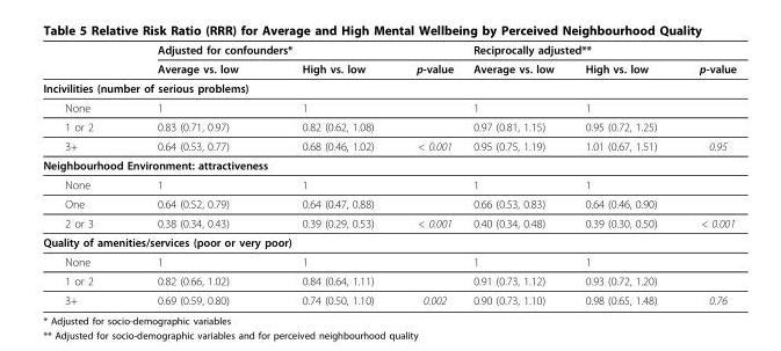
<table><thead><tr><td rowspan="2"></td><td colspan="3">Adjusted for confounders*</td><td colspan="3">Reciprocally adjusted**</td></tr><tr><td>Average vs. low</td><td>High vs. low</td><td>p-value</td><td>Average vs. low</td><td>High vs. low</td><td>p-value</td></tr></thead><tbody><tr><td colspan="7">Incivilities (number of serious problems)</td></tr><tr><td>None</td><td>1</td><td>1</td><td></td><td>1</td><td>1</td><td></td></tr><tr><td>1 or 2</td><td>0.83 (0.71, 0.97)</td><td>0.82 (0.62, 1.08)</td><td></td><td>0.97 (0.81, 1.15)</td><td>0.95 (0.72, 1.25)</td><td></td></tr><tr><td>3+</td><td>0.64 (0.53, 0.77)</td><td>0.68 (0.46, 1.02)</td><td>&lt; 0.001</td><td>0.95 (0.75, 1.19)</td><td>1.01 (0.67, 1.51)</td><td>0.95</td></tr><tr><td colspan="7">Neighbourhood Environment: attractiveness</td></tr><tr><td>None</td><td>1</td><td>1</td><td></td><td>1</td><td>1</td><td></td></tr><tr><td>One</td><td>0.64 (0.52, 0.79)</td><td>0.64 (0.47, 0.88)</td><td></td><td>0.66 (0.53, 0.83)</td><td>0.64 (0.46, 0.90)</td><td></td></tr><tr><td>2 or 3</td><td>0.38 (0.34, 0.43)</td><td>0.39 (0.29, 0.53)</td><td>&lt; 0.001</td><td>0.40 (0.34, 0.48)</td><td>0.39 (0.30, 0.50)</td><td>&lt; 0.001</td></tr><tr><td colspan="7">Quality of amenities/services (poor or very poor)</td></tr><tr><td>None</td><td>1</td><td>1</td><td></td><td>1</td><td>1</td><td></td></tr><tr><td>1 or 2</td><td>0.82 (0.66, 1.02)</td><td>0.84 (0.64, 1.11)</td><td></td><td>0.91 (0.73, 1.12)</td><td>0.93 (0.72, 1.20)</td><td></td></tr><tr><td>3+</td><td>0.69 (0.59, 0.80)</td><td>0.74 (0.50, 1.10)</td><td>0.002</td><td>0.90 (0.73, 1.10)</td><td>0.98 (0.65, 1.48)</td><td>0.76</td></tr></tbody></table>